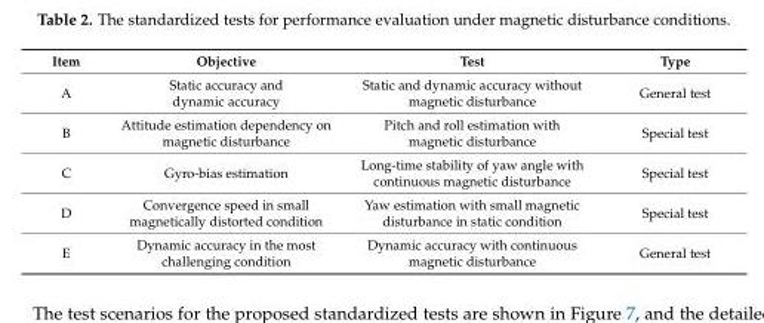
<table><thead><tr><td>Item</td><td>Objective</td><td>Test</td><td>Type</td></tr></thead><tbody><tr><td>A</td><td>Static accuracy and dynamic accuracy</td><td>Static and dynamic accuracy without magnetic disturbance</td><td>General test</td></tr><tr><td>B</td><td>Attitude estimation dependency on magnetic disturbance</td><td>Pitch and roll estimation with magnetic disturbance</td><td>Special test</td></tr><tr><td>C</td><td>Gyro-bias estimation</td><td>Long-time stability of yaw angle with continuous magnetic disturbance</td><td>Special test</td></tr><tr><td>D</td><td>Convergence speed in small magnetically distorted condition</td><td>Yaw estimation with small magnetic disturbance in static condition</td><td>Special test</td></tr><tr><td>E</td><td>Dynamic accuracy in the most challenging condition</td><td>Dynamic accuracy with continuous magnetic disturbance</td><td>General test</td></tr></tbody></table>